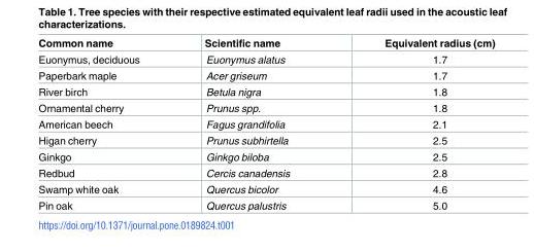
<table><thead><tr><td>Common name</td><td>Scientific name</td><td>Equivalent radius (cm)</td></tr></thead><tbody><tr><td>Euonymus, deciduous</td><td>Euonymus alatus</td><td>1.7</td></tr><tr><td>Paperbark maple</td><td>Acer griseum</td><td>1.7</td></tr><tr><td>River birch</td><td>Betula nigra</td><td>1.8</td></tr><tr><td>Ornamental cherry</td><td>Prunus spp.</td><td>1.8</td></tr><tr><td>American beech</td><td>Fagus grandifolia</td><td>2.1</td></tr><tr><td>Higan cherry</td><td>Prunus subhirtella</td><td>2.5</td></tr><tr><td>Ginkgo</td><td>Ginkgo biloba</td><td>2.5</td></tr><tr><td>Redbud</td><td>Cercis canadensis</td><td>2.8</td></tr><tr><td>Swamp white oak</td><td>Quercus bicolor</td><td>4.6</td></tr><tr><td>Pin oak</td><td>Quercus palustris</td><td>5.0</td></tr></tbody></table>